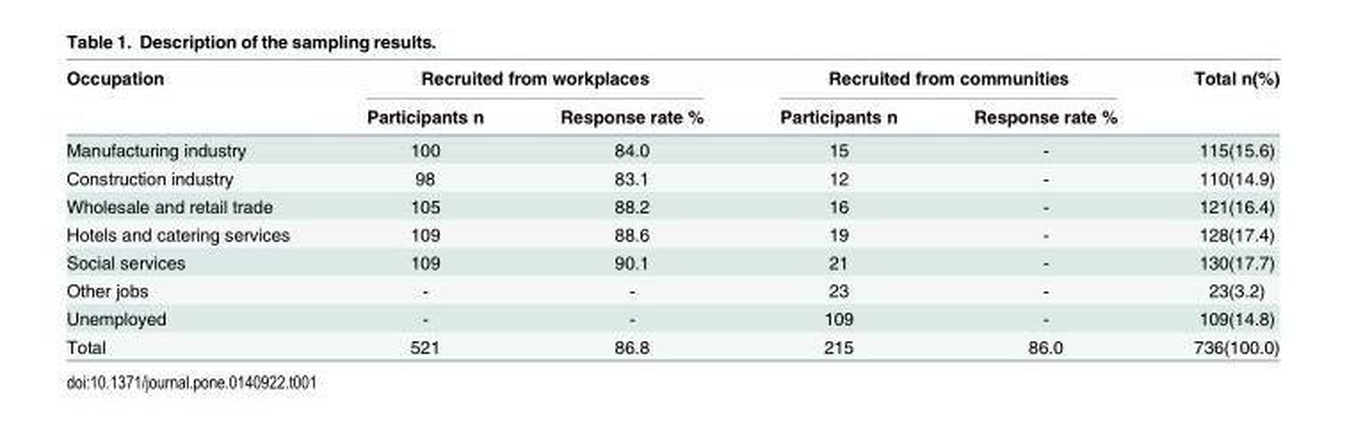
<table><thead><tr><td rowspan="2">Occupation</td><td colspan="2">Recruited from workplaces</td><td colspan="2">Recruited from communities</td><td rowspan="2">Total n(%)</td></tr><tr><td>Participants n</td><td>Response rate %</td><td>Participants n</td><td>Response rate %</td></tr></thead><tbody><tr><td>Manufacturing industry</td><td>100</td><td>84.0</td><td>15</td><td>-</td><td>115(15.6)</td></tr><tr><td>Construction industry</td><td>98</td><td>83.1</td><td>12</td><td>-</td><td>110(14.9)</td></tr><tr><td>Wholesale and retail trade</td><td>105</td><td>88.2</td><td>16</td><td>-</td><td>121(16.4)</td></tr><tr><td>Hotels and catering services</td><td>109</td><td>88.6</td><td>19</td><td>-</td><td>128(17.4)</td></tr><tr><td>Social services</td><td>109</td><td>90.1</td><td>21</td><td>-</td><td>130(17.7)</td></tr><tr><td>Other jobs</td><td>-</td><td>-</td><td>23</td><td>-</td><td>23(3.2)</td></tr><tr><td>Unemployed</td><td>-</td><td>-</td><td>109</td><td>-</td><td>109(14.8)</td></tr><tr><td>Total</td><td>521</td><td>86.8</td><td>215</td><td>86.0</td><td>736(100.0)</td></tr></tbody></table>